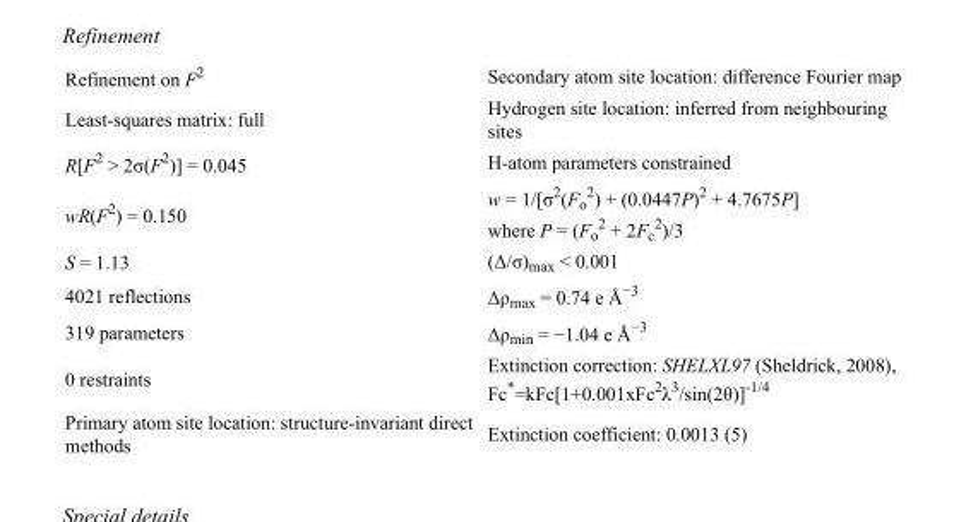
<table><tbody><tr><td>Refinement on F<sup>2</sup></td><td>Secondary atom site location: difference Fourier map</td></tr><tr><td>Least-squares matrix: full</td><td>Hydrogen site location: inferred from neighbouring sites</td></tr><tr><td>R[F<sup>2</sup> &gt; 2σ(F<sup>2</sup>)] = 0.045</td><td>H-atom parameters constrained</td></tr><tr><td>wR(F<sup>2</sup>) = 0.150</td><td>w = 1/[σ<sup>2</sup>(F<sub>o</sub> <sup>2</sup>) + (0.0447P)<sup>2</sup> + 4.7675P] where P = (F<sub>o</sub> <sup>2</sup> + 2F<sub>c</sub> <sup>2</sup>)/3</td></tr><tr><td>S = 1.13</td><td>(Δ/σ)<sub>max</sub> &lt; 0.001</td></tr><tr><td>4021 reflections</td><td>Δρ<sub>max</sub> = 0.74 e Å<sup>−3</sup></td></tr><tr><td>319 parameters</td><td>Δρ<sub>min</sub> = −1.04 e Å<sup>−3</sup></td></tr><tr><td>0 restraints</td><td>Extinction correction: SHELXL97 (Sheldrick, 2008), Fc*=kFc[1+0.001xFc<sup>2</sup>λ<sup>3</sup>/sin(2θ)]<sup>-1/4</sup></td></tr><tr><td>Primary atom site location: structure-invariant direct methods</td><td>Extinction coefficient: 0.0013 (5)</td></tr></tbody></table>